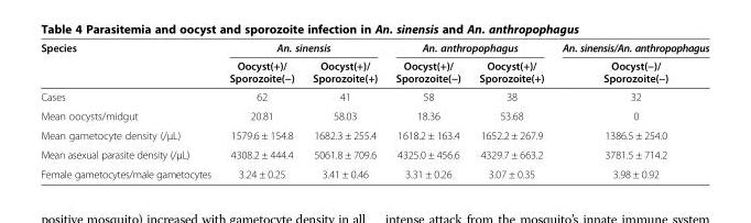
<table><thead><tr><td rowspan="2">Species</td><td colspan="2">An. sinensis</td><td colspan="2">An. anthropophagus</td><td rowspan="2">An. sinensis/An. anthropophagus Oocyst(−)/ Sporozoite(−)</td></tr><tr><td>Oocyst(+)/ Sporozoite(−)</td><td>Oocyst(+)/ Sporozoite(+)</td><td>Oocyst(+)/ Sporozoite(−)</td><td>Oocyst(+)/ Sporozoite(+)</td></tr></thead><tbody><tr><td>Cases</td><td>62</td><td>41</td><td>58</td><td>38</td><td>32</td></tr><tr><td>Mean oocysts/midgut</td><td>20.81</td><td>58.03</td><td>18.36</td><td>53.68</td><td>0</td></tr><tr><td>Mean gametocyte density (/μL)</td><td>1579.6 ± 154.8</td><td>1682.3 ± 255.4</td><td>1618.2 ± 163.4</td><td>1652.2 ± 267.9</td><td>1386.5 ± 254.0</td></tr><tr><td>Mean asexual parasite density (/μL)</td><td>4308.2 ± 444.4</td><td>5061.8 ± 709.6</td><td>4325.0 ± 456.6</td><td>4329.7 ± 663.2</td><td>3781.5 ± 714.2</td></tr><tr><td>Female gametocytes/male gametocytes</td><td>3.24 ± 0.25</td><td>3.41 ± 0.46</td><td>3.31 ± 0.26</td><td>3.07 ± 0.35</td><td>3.98 ± 0.92</td></tr></tbody></table>